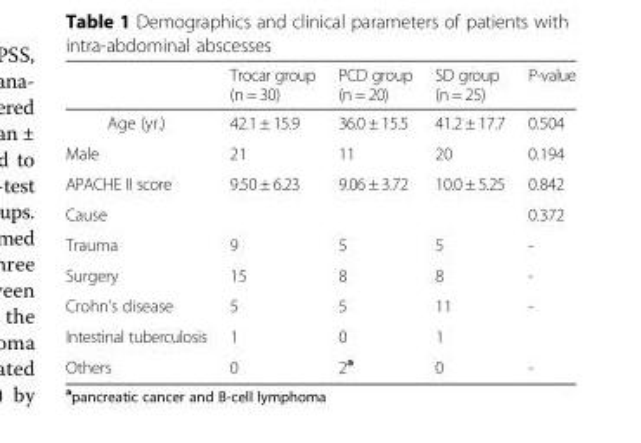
<table><thead><tr><td></td><td>Trocar group (n = 30)</td><td>PCD group (n = 20)</td><td>SD group (n = 25)</td><td>P-value</td></tr></thead><tbody><tr><td>Age (yr.)</td><td>42.1 ± 15.9</td><td>36.0 ± 15.5</td><td>41.2 ± 17.7</td><td>0.504</td></tr><tr><td>Male</td><td>21</td><td>11</td><td>20</td><td>0.194</td></tr><tr><td>APACHE II score</td><td>9.50 ± 6.23</td><td>9.06 ± 3.72</td><td>10.0 ± 5.25</td><td>0.842</td></tr><tr><td>Cause</td><td></td><td></td><td></td><td>0.372</td></tr><tr><td>Trauma</td><td>9</td><td>5</td><td>5</td><td>-</td></tr><tr><td>Surgery</td><td>15</td><td>8</td><td>8</td><td>-</td></tr><tr><td>Crohn’s disease</td><td>5</td><td>5</td><td>11</td><td>-</td></tr><tr><td>Intestinal tuberculosis</td><td>1</td><td>0</td><td>1</td><td></td></tr><tr><td>Others</td><td>0</td><td>2<sup>a</sup></td><td>0</td><td>-</td></tr></tbody></table>